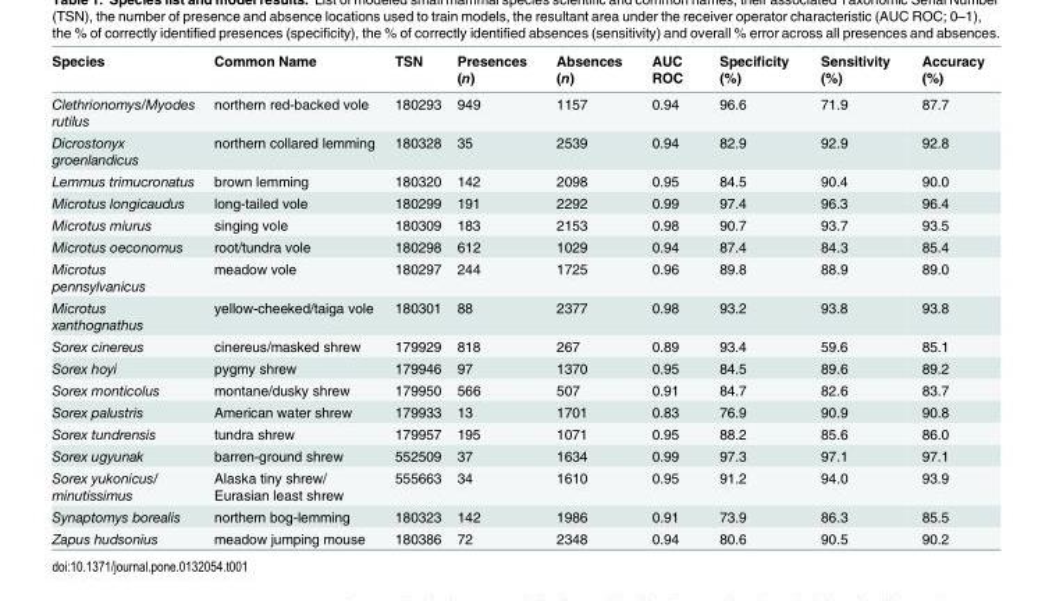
<table><thead><tr><td>Species</td><td>Common Name</td><td>TSN</td><td>Presences (n)</td><td>Absences (n)</td><td>AUC ROC</td><td>Specificity (%)</td><td>Sensitivity (%)</td><td>Accuracy (%)</td></tr></thead><tbody><tr><td>Clethrionomys/Myodes rutilus</td><td>northern red-backed vole</td><td>180293</td><td>949</td><td>1157</td><td>0.94</td><td>96.6</td><td>71.9</td><td>87.7</td></tr><tr><td>Dicrostonyx groenlandicus</td><td>northern collared lemming</td><td>180328</td><td>35</td><td>2539</td><td>0.94</td><td>82.9</td><td>92.9</td><td>92.8</td></tr><tr><td>Lemmus trimucronatus</td><td>brown lemming</td><td>180320</td><td>142</td><td>2098</td><td>0.95</td><td>84.5</td><td>90.4</td><td>90.0</td></tr><tr><td>Microtus longicaudus</td><td>long-tailed vole</td><td>180299</td><td>191</td><td>2292</td><td>0.99</td><td>97.4</td><td>96.3</td><td>96.4</td></tr><tr><td>Microtus miurus</td><td>singing vole</td><td>180309</td><td>183</td><td>2153</td><td>0.98</td><td>90.7</td><td>93.7</td><td>93.5</td></tr><tr><td>Microtus oeconomus</td><td>root/tundra vole</td><td>180298</td><td>612</td><td>1029</td><td>0.94</td><td>87.4</td><td>84.3</td><td>85.4</td></tr><tr><td>Microtus pennsylvanicus</td><td>meadow vole</td><td>180297</td><td>244</td><td>1725</td><td>0.96</td><td>89.8</td><td>88.9</td><td>89.0</td></tr><tr><td>Microtus xanthognathus</td><td>yellow-cheeked/taiga vole</td><td>180301</td><td>88</td><td>2377</td><td>0.98</td><td>93.2</td><td>93.8</td><td>93.8</td></tr><tr><td>Sorex cinereus</td><td>cinereus/masked shrew</td><td>179929</td><td>818</td><td>267</td><td>0.89</td><td>93.4</td><td>59.6</td><td>85.1</td></tr><tr><td>Sorex hoyi</td><td>pygmy shrew</td><td>179946</td><td>97</td><td>1370</td><td>0.95</td><td>84.5</td><td>89.6</td><td>89.2</td></tr><tr><td>Sorex monticolus</td><td>montane/dusky shrew</td><td>179950</td><td>566</td><td>507</td><td>0.91</td><td>84.7</td><td>82.6</td><td>83.7</td></tr><tr><td>Sorex palustris</td><td>American water shrew</td><td>179933</td><td>13</td><td>1701</td><td>0.83</td><td>76.9</td><td>90.9</td><td>90.8</td></tr><tr><td>Sorex tundrensis</td><td>tundra shrew</td><td>179957</td><td>195</td><td>1071</td><td>0.95</td><td>88.2</td><td>85.6</td><td>86.0</td></tr><tr><td>Sorex ugyunak</td><td>barren-ground shrew</td><td>552509</td><td>37</td><td>1634</td><td>0.99</td><td>97.3</td><td>97.1</td><td>97.1</td></tr><tr><td>Sorex yukonicus/ minutissimus</td><td>Alaska tiny shrew/ Eurasian least shrew</td><td>555663</td><td>34</td><td>1610</td><td>0.95</td><td>91.2</td><td>94.0</td><td>93.9</td></tr><tr><td>Synaptomys borealis</td><td>northern bog-lemming</td><td>180323</td><td>142</td><td>1986</td><td>0.91</td><td>73.9</td><td>86.3</td><td>85.5</td></tr><tr><td>Zapus hudsonius</td><td>meadow jumping mouse</td><td>180386</td><td>72</td><td>2348</td><td>0.94</td><td>80.6</td><td>90.5</td><td>90.2</td></tr></tbody></table>